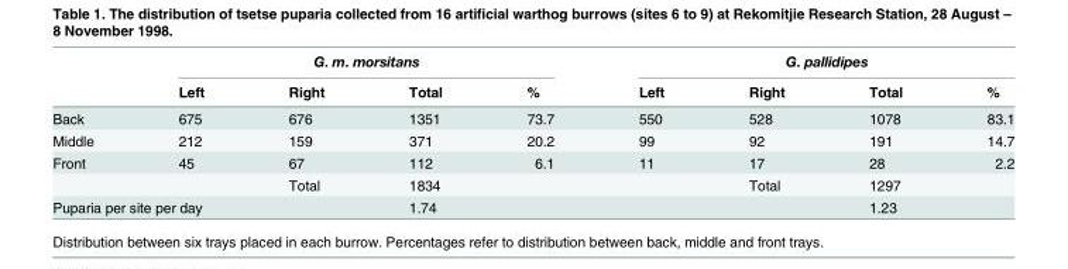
<table><thead><tr><td rowspan="2"></td><td colspan="4">G. m. morsitans</td><td colspan="4">G. pallidipes</td></tr><tr><td>Left</td><td>Right</td><td>Total</td><td>%</td><td>Left</td><td>Right</td><td>Total</td><td>%</td></tr></thead><tbody><tr><td>Back</td><td>675</td><td>676</td><td>1351</td><td>73.7</td><td>550</td><td>528</td><td>1078</td><td>83.1</td></tr><tr><td>Middle</td><td>212</td><td>159</td><td>371</td><td>20.2</td><td>99</td><td>92</td><td>191</td><td>14.7</td></tr><tr><td rowspan="2">Front</td><td>45</td><td>67</td><td>112</td><td>6.1</td><td>11</td><td>17</td><td>28</td><td>2.2</td></tr><tr><td></td><td>Total</td><td>1834</td><td></td><td></td><td>Total</td><td>1297</td><td></td></tr><tr><td colspan="3">Puparia per site per day</td><td>1.74</td><td></td><td></td><td></td><td>1.23</td><td></td></tr></tbody></table>